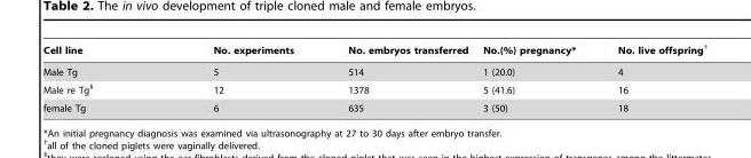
<table><thead><tr><td>Cell line</td><td>No. experiments</td><td>No. embryos transferred</td><td>No.(%) pregnancy*</td><td>No. live offspring†</td></tr></thead><tbody><tr><td>Male Tg</td><td>5</td><td>514</td><td>1 (20.0)</td><td>4</td></tr><tr><td>Male re Tg§</td><td>12</td><td>1378</td><td>5 (41.6)</td><td>16</td></tr><tr><td>female Tg</td><td>6</td><td>635</td><td>3 (50)</td><td>18</td></tr></tbody></table>